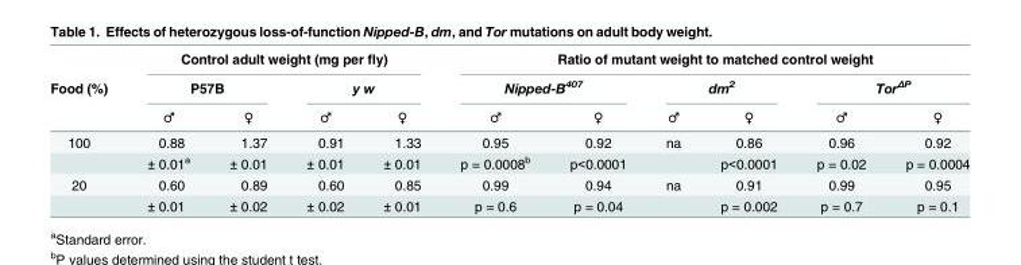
<table><thead><tr><td rowspan="3">Food (%)</td><td colspan="4">Control adult weight (mg per fly)</td><td colspan="6">Ratio of mutant weight to matched control weight</td></tr><tr><td colspan="2">P57B</td><td colspan="2">y w</td><td colspan="2">Nipped-B<sup>407</sup></td><td colspan="2">dm<sup>2</sup></td><td colspan="2">Tor<sup>ΔP</sup></td></tr><tr><td>♂</td><td>♀</td><td>♂</td><td>♀</td><td>♂</td><td>♀</td><td>♂</td><td>♀</td><td>♂</td><td>♀</td></tr></thead><tbody><tr><td rowspan="2">100</td><td>0.88</td><td>1.37</td><td>0.91</td><td>1.33</td><td>0.95</td><td>0.92</td><td>na</td><td>0.86</td><td>0.96</td><td>0.92</td></tr><tr><td>± 0.01<sup>a</sup></td><td>± 0.01</td><td>± 0.01</td><td>± 0.01</td><td>p = 0.0008<sup>b</sup></td><td>p&lt;0.0001</td><td></td><td>p&lt;0.0001</td><td>p = 0.02</td><td>p = 0.0004</td></tr><tr><td rowspan="2">20</td><td>0.60</td><td>0.89</td><td>0.60</td><td>0.85</td><td>0.99</td><td>0.94</td><td>na</td><td>0.91</td><td>0.99</td><td>0.95</td></tr><tr><td>± 0.01</td><td>± 0.02</td><td>± 0.02</td><td>± 0.01</td><td>p = 0.6</td><td>p = 0.04</td><td></td><td>p = 0.002</td><td>p = 0.7</td><td>p = 0.1</td></tr></tbody></table>